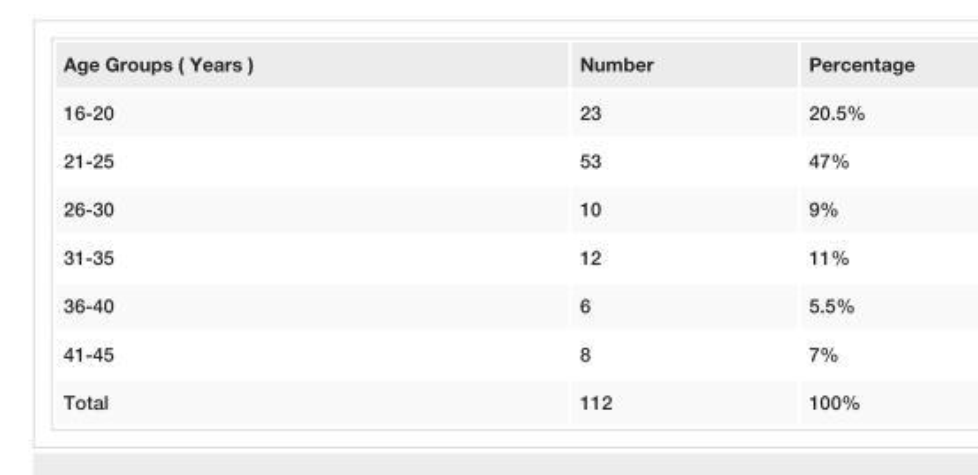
<table><tbody><tr><td>Age Groups ( Years )</td><td>Number</td><td>Percentage</td></tr><tr><td>16-20</td><td>23</td><td>20.5%</td></tr><tr><td>21-25</td><td>53</td><td>47%</td></tr><tr><td>26-30</td><td>10</td><td>9%</td></tr><tr><td>31-35</td><td>12</td><td>11%</td></tr><tr><td>36-40</td><td>6</td><td>5.5%</td></tr><tr><td>41-45</td><td>8</td><td>7%</td></tr><tr><td>Total</td><td>112</td><td>100%</td></tr></tbody></table>